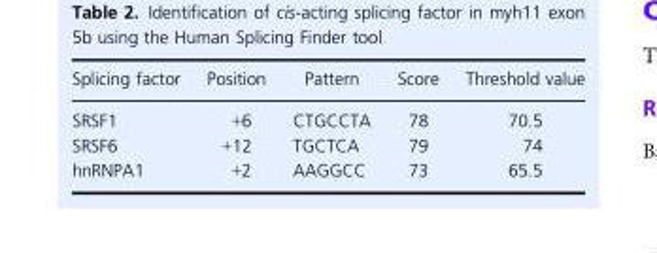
<table><thead><tr><td>Splicing factor</td><td>Position</td><td>Pattern</td><td>Score</td><td>Threshold value</td></tr></thead><tbody><tr><td>SRSF1</td><td>+6</td><td>CTGCCTA</td><td>78</td><td>70.5</td></tr><tr><td>SRSF6</td><td>+12</td><td>TGCTCA</td><td>79</td><td>74</td></tr><tr><td>hnRNPA1</td><td>+2</td><td>AAGGCC</td><td>73</td><td>65.5</td></tr></tbody></table>